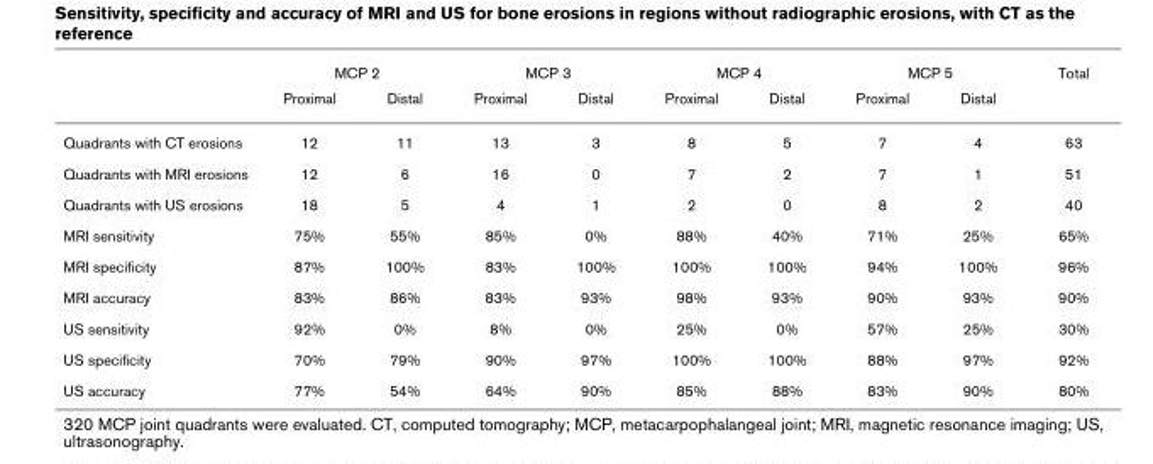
<table><thead><tr><td rowspan="2"></td><td colspan="2">MCP 2</td><td colspan="2">MCP 3</td><td colspan="2">MCP 4</td><td colspan="2">MCP 5</td><td rowspan="2">Total</td></tr><tr><td>Proximal</td><td>Distal</td><td>Proximal</td><td>Distal</td><td>Proximal</td><td>Distal</td><td>Proximal</td><td>Distal</td></tr></thead><tbody><tr><td>Quadrants with CT erosions</td><td>12</td><td>11</td><td>13</td><td>3</td><td>8</td><td>5</td><td>7</td><td>4</td><td>63</td></tr><tr><td>Quadrants with MRI erosions</td><td>12</td><td>6</td><td>16</td><td>0</td><td>7</td><td>2</td><td>7</td><td>1</td><td>51</td></tr><tr><td>Quadrants with US erosions</td><td>18</td><td>5</td><td>4</td><td>1</td><td>2</td><td>0</td><td>8</td><td>2</td><td>40</td></tr><tr><td>MRI sensitivity</td><td>75%</td><td>55%</td><td>85%</td><td>0%</td><td>88%</td><td>40%</td><td>71%</td><td>25%</td><td>65%</td></tr><tr><td>MRI specificity</td><td>87%</td><td>100%</td><td>83%</td><td>100%</td><td>100%</td><td>100%</td><td>94%</td><td>100%</td><td>96%</td></tr><tr><td>MRI accuracy</td><td>83%</td><td>86%</td><td>83%</td><td>93%</td><td>98%</td><td>93%</td><td>90%</td><td>93%</td><td>90%</td></tr><tr><td>US sensitivity</td><td>92%</td><td>0%</td><td>8%</td><td>0%</td><td>25%</td><td>0%</td><td>57%</td><td>25%</td><td>30%</td></tr><tr><td>US specificity</td><td>70%</td><td>79%</td><td>90%</td><td>97%</td><td>100%</td><td>100%</td><td>88%</td><td>97%</td><td>92%</td></tr><tr><td>US accuracy</td><td>77%</td><td>54%</td><td>64%</td><td>90%</td><td>85%</td><td>88%</td><td>83%</td><td>90%</td><td>80%</td></tr></tbody></table>